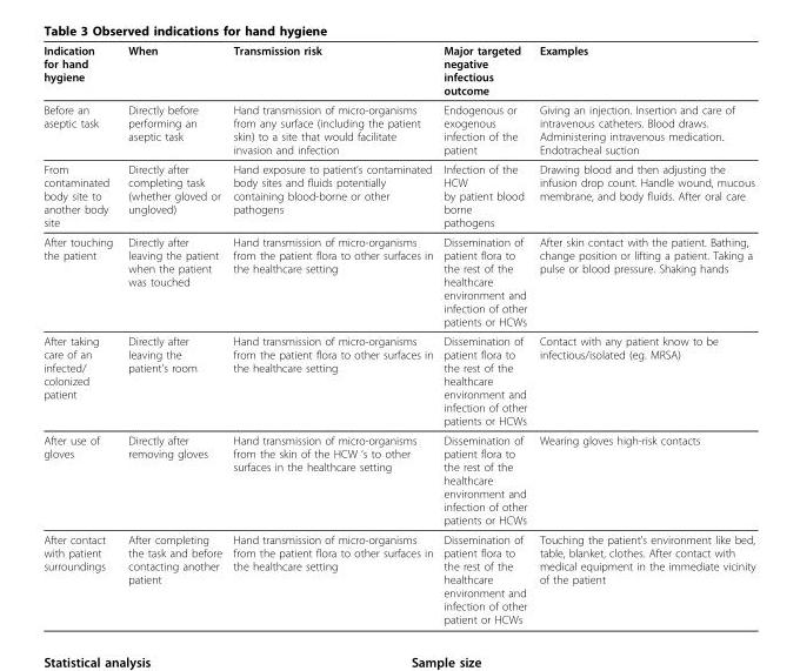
<table><thead><tr><td>Indication for hand hygiene</td><td>When</td><td>Transmission risk</td><td>Major targeted negative infectious outcome</td><td>Examples</td></tr></thead><tbody><tr><td>Before an aseptic task</td><td>Directly before performing an aseptic task</td><td>Hand transmission of micro-organisms from any surface (including the patient skin) to a site that would facilitate invasion and infection</td><td>Endogenous or exogenous infection of the patient</td><td>Giving an injection. Insertion and care of intravenous catheters. Blood draws. Administering intravenous medication. Endotracheal suction</td></tr><tr><td>From contaminated body site to another body site</td><td>Directly after completing task (whether gloved or ungloved)</td><td>Hand exposure to patient’s contaminated body sites and fluids potentially containing blood-borne or other pathogens</td><td>Infection of the HCW by patient blood borne pathogens</td><td>Drawing blood and then adjusting the infusion drop count. Handle wound, mucous membrane, and body fluids. After oral care</td></tr><tr><td>After touching the patient</td><td>Directly after leaving the patient when the patient was touched</td><td>Hand transmission of micro-organisms from the patient flora to other surfaces in the healthcare setting</td><td>Dissemination of patient flora to the rest of the healthcare environment and infection of other patients or HCWs</td><td>After skin contact with the patient. Bathing, change position or lifting a patient. Taking a pulse or blood pressure. Shaking hands</td></tr><tr><td>After taking care of an infected/ colonized patient</td><td>Directly after leaving the patient’s room</td><td>Hand transmission of micro-organisms from the patient flora to other surfaces in the healthcare setting</td><td>Dissemination of patient flora to the rest of the healthcare environment and infection of other patients or HCWs</td><td>Contact with any patient know to be infectious/isolated (eg. MRSA)</td></tr><tr><td>After use of gloves</td><td>Directly after removing gloves</td><td>Hand transmission of micro-organisms from the skin of the HCW ‘s to other surfaces in the healthcare setting</td><td>Dissemination of patient flora to the rest of the healthcare environment and infection of other patients or HCWs</td><td>Wearing gloves high-risk contacts</td></tr><tr><td>After contact with patient surroundings</td><td>After completing the task and before contacting another patient</td><td>Hand transmission of micro-organisms from the patient flora to other surfaces in the healthcare setting</td><td>Dissemination of patient flora to the rest of the healthcare environment and infection of other patient or HCWs</td><td>Touching the patient’s environment like bed, table, blanket, clothes. After contact with medical equipment in the immediate vicinity of the patient</td></tr></tbody></table>